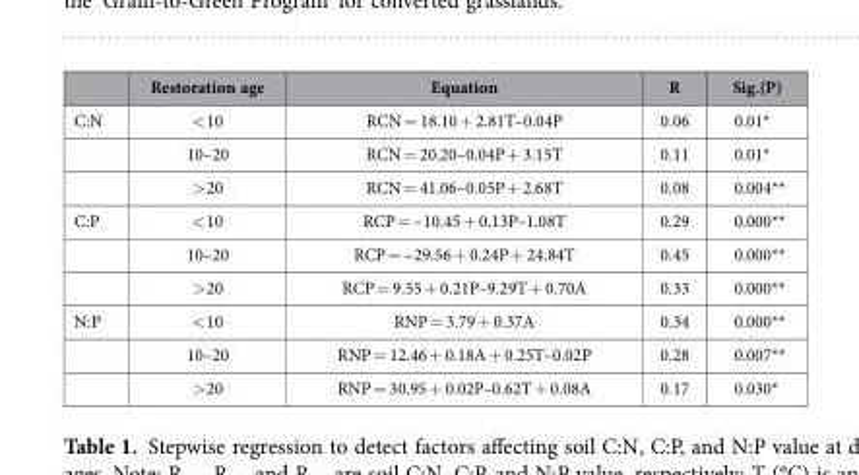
<table><thead><tr><td></td><td>Restoration age</td><td>Equation</td><td>R</td><td>Sig.(P)</td></tr></thead><tbody><tr><td rowspan="3">C:N</td><td>&lt; 10</td><td>RCN = 18.10 + 2.81T–0.04P</td><td>0.06</td><td>0.01*</td></tr><tr><td>10–20</td><td>RCN = 20.20–0.04P + 3.15T</td><td>0.11</td><td>0.01*</td></tr><tr><td>&gt; 20</td><td>RCN = 41.06–0.05P + 2.68T</td><td>0.08</td><td>0.004**</td></tr><tr><td rowspan="3">C:P</td><td>&lt; 10</td><td>RCP = – 10.45 + 0.13P–1.08T</td><td>0.29</td><td>0.000**</td></tr><tr><td>10–20</td><td>RCP = – 29.56 + 0.24P + 24.84T</td><td>0.45</td><td>0.000**</td></tr><tr><td>&gt; 20</td><td>RCP = 9.55 + 0.21P–9.29T + 0.70A</td><td>0.33</td><td>0.000**</td></tr><tr><td rowspan="3">N:P</td><td>&lt; 10</td><td>RNP = 3.79 + 0.37A</td><td>0.34</td><td>0.000**</td></tr><tr><td>10–20</td><td>RNP = 12.46 + 0.18A + 0.25T–0.02P</td><td>0.28</td><td>0.007**</td></tr><tr><td>&gt; 20</td><td>RNP = 30.95 + 0.02P–0.62T + 0.08A</td><td>0.17</td><td>0.030*</td></tr></tbody></table>